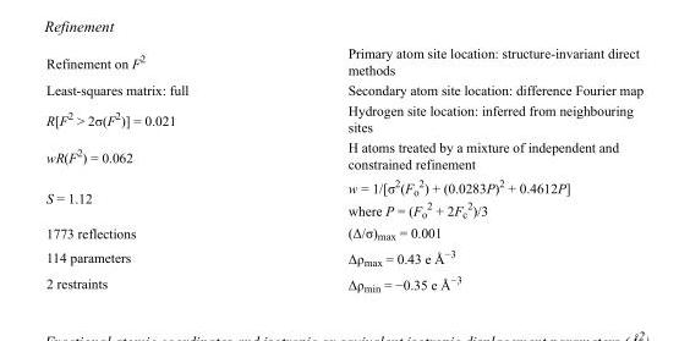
<table><tbody><tr><td>Refinement on F<sup>2</sup></td><td>Primary atom site location: structure-invariant direct methods</td></tr><tr><td>Least-squares matrix: full</td><td>Secondary atom site location: difference Fourier map</td></tr><tr><td>R[F<sup>2</sup> &gt; 2σ(F<sup>2</sup>)] = 0.021</td><td>Hydrogen site location: inferred from neighbouring sites</td></tr><tr><td>wR(F<sup>2</sup>) = 0.062</td><td>H atoms treated by a mixture of independent and constrained refinement</td></tr><tr><td>S = 1.12</td><td>w = 1/[σ<sup>2</sup>(F<sub>o</sub> <sup>2</sup>) + (0.0283P)<sup>2</sup> + 0.4612P] where P = (F<sub>o</sub> <sup>2</sup> + 2F<sub>c</sub> <sup>2</sup>)/3</td></tr><tr><td>1773 reflections</td><td>(Δ/σ)<sub>max</sub> = 0.001</td></tr><tr><td>114 parameters</td><td>Δρ<sub>max</sub> = 0.43 e Å<sup>−3</sup></td></tr><tr><td>2 restraints</td><td>Δρ<sub>min</sub> = −0.35 e Å<sup>−3</sup></td></tr></tbody></table>